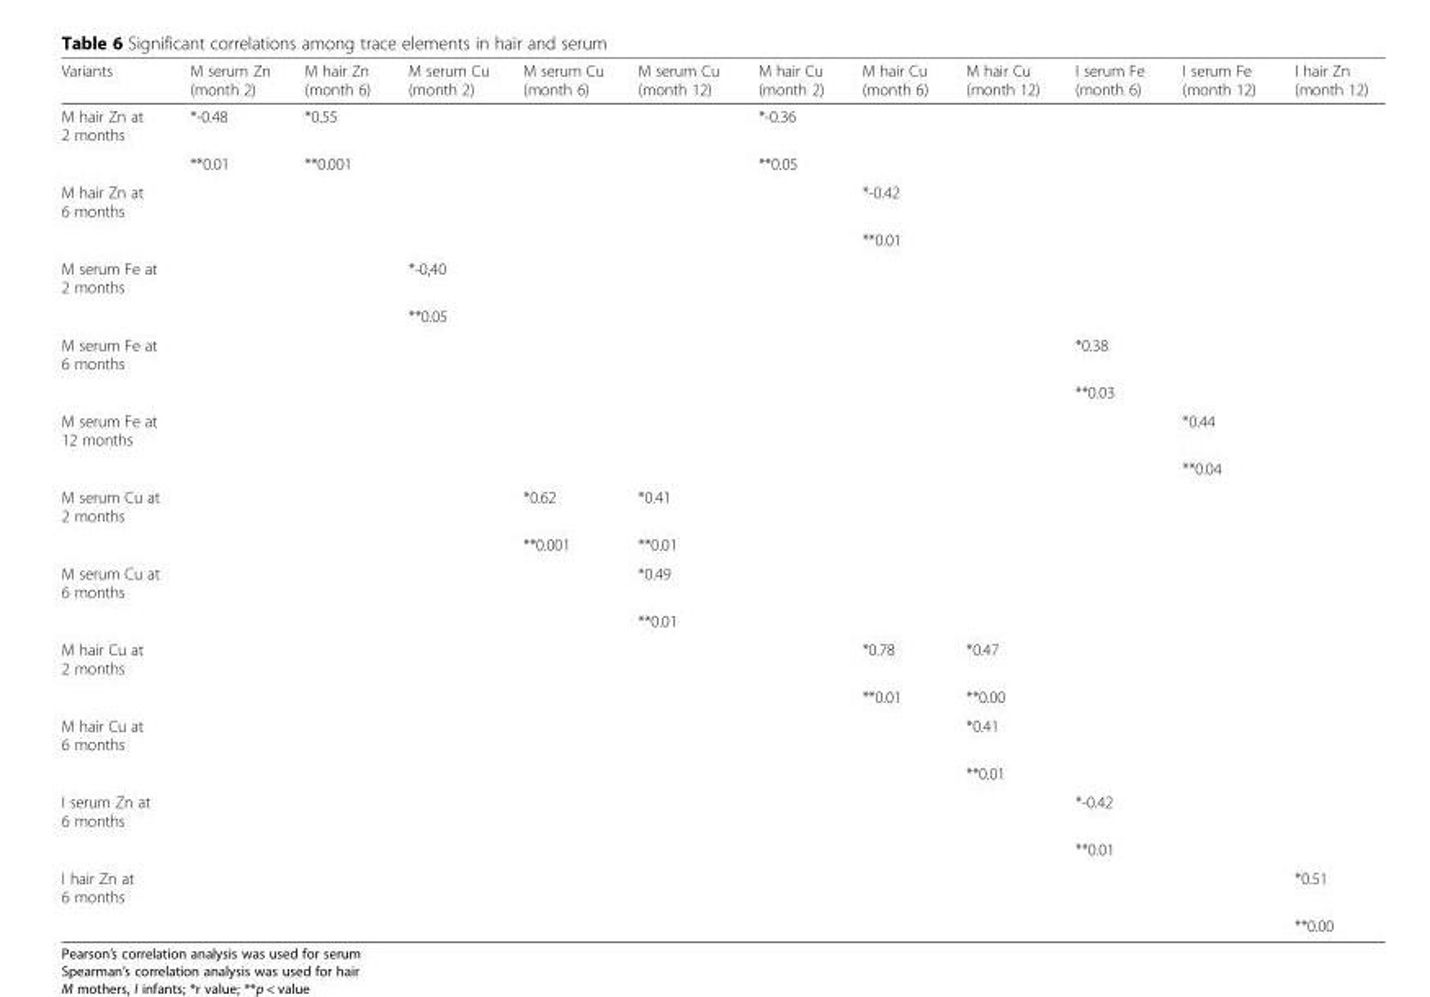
<table><thead><tr><td>Variants</td><td>M serum Zn (month 2)</td><td>M hair Zn (month 6)</td><td>M serum Cu (month 2)</td><td>M serum Cu (month 6)</td><td>M serum Cu (month 12)</td><td>M hair Cu (month 2)</td><td>M hair Cu (month 6)</td><td>M hair Cu (month 12)</td><td>I serum Fe (month 6)</td><td>I serum Fe (month 12)</td><td>I hair Zn (month 12)</td></tr></thead><tbody><tr><td rowspan="2">M hair Zn at 2 months</td><td>*-0.48</td><td>*0.55</td><td></td><td></td><td></td><td>*-0.36</td><td></td><td></td><td></td><td></td><td></td></tr><tr><td>**0.01</td><td>**0.001</td><td></td><td></td><td></td><td>**0.05</td><td></td><td></td><td></td><td></td><td></td></tr><tr><td rowspan="2">M hair Zn at 6 months</td><td></td><td></td><td></td><td></td><td></td><td></td><td>*-0.42</td><td></td><td></td><td></td><td></td></tr><tr><td></td><td></td><td></td><td></td><td></td><td></td><td>**0.01</td><td></td><td></td><td></td><td></td></tr><tr><td rowspan="2">M serum Fe at 2 months</td><td></td><td></td><td>*-0,40</td><td></td><td></td><td></td><td></td><td></td><td></td><td></td><td></td></tr><tr><td></td><td></td><td>**0.05</td><td></td><td></td><td></td><td></td><td></td><td></td><td></td><td></td></tr><tr><td rowspan="2">M serum Fe at 6 months</td><td></td><td></td><td></td><td></td><td></td><td></td><td></td><td></td><td>*0.38</td><td></td><td></td></tr><tr><td></td><td></td><td></td><td></td><td></td><td></td><td></td><td></td><td>**0.03</td><td></td><td></td></tr><tr><td rowspan="2">M serum Fe at 12 months</td><td></td><td></td><td></td><td></td><td></td><td></td><td></td><td></td><td></td><td>*0.44</td><td></td></tr><tr><td></td><td></td><td></td><td></td><td></td><td></td><td></td><td></td><td></td><td>**0.04</td><td></td></tr><tr><td rowspan="2">M serum Cu at 2 months</td><td></td><td></td><td></td><td>*0.62</td><td>*0.41</td><td></td><td></td><td></td><td></td><td></td><td></td></tr><tr><td></td><td></td><td></td><td>**0.001</td><td>**0.01</td><td></td><td></td><td></td><td></td><td></td><td></td></tr><tr><td rowspan="2">M serum Cu at 6 months</td><td></td><td></td><td></td><td></td><td>*0.49</td><td></td><td></td><td></td><td></td><td></td><td></td></tr><tr><td></td><td></td><td></td><td></td><td>**0.01</td><td></td><td></td><td></td><td></td><td></td><td></td></tr><tr><td rowspan="2">M hair Cu at 2 months</td><td></td><td></td><td></td><td></td><td></td><td></td><td>*0.78</td><td>*0.47</td><td></td><td></td><td></td></tr><tr><td></td><td></td><td></td><td></td><td></td><td></td><td>**0.01</td><td>**0.00</td><td></td><td></td><td></td></tr><tr><td rowspan="2">M hair Cu at 6 months</td><td></td><td></td><td></td><td></td><td></td><td></td><td></td><td>*0.41</td><td></td><td></td><td></td></tr><tr><td></td><td></td><td></td><td></td><td></td><td></td><td></td><td>**0.01</td><td></td><td></td><td></td></tr><tr><td rowspan="2">I serum Zn at 6 months</td><td></td><td></td><td></td><td></td><td></td><td></td><td></td><td></td><td>*-0.42</td><td></td><td></td></tr><tr><td></td><td></td><td></td><td></td><td></td><td></td><td></td><td></td><td>**0.01</td><td></td><td></td></tr><tr><td rowspan="2">I hair Zn at 6 months</td><td></td><td></td><td></td><td></td><td></td><td></td><td></td><td></td><td></td><td></td><td>*0.51</td></tr><tr><td></td><td></td><td></td><td></td><td></td><td></td><td></td><td></td><td></td><td></td><td>**0.00</td></tr></tbody></table>